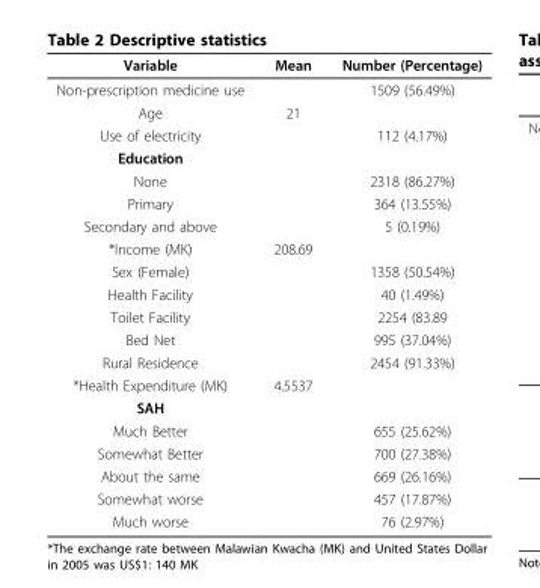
<table><thead><tr><td>Variable</td><td>Mean</td><td>Number (Percentage)</td></tr></thead><tbody><tr><td>Non-prescription medicine use</td><td></td><td>1509 (56.49%)</td></tr><tr><td>Age</td><td>21</td><td></td></tr><tr><td>Use of electricity</td><td></td><td>112 (4.17%)</td></tr><tr><td colspan="3">Education</td></tr><tr><td>None</td><td></td><td>2318 (86.27%)</td></tr><tr><td>Primary</td><td></td><td>364 (13.55%)</td></tr><tr><td>Secondary and above</td><td></td><td>5 (0.19%)</td></tr><tr><td>*Income (MK)</td><td>208.69</td><td></td></tr><tr><td>Sex (Female)</td><td></td><td>1358 (50.54%)</td></tr><tr><td>Health Facility</td><td></td><td>40 (1.49%)</td></tr><tr><td>Toilet Facility</td><td></td><td>2254 (83.89</td></tr><tr><td>Bed Net</td><td></td><td>995 (37.04%)</td></tr><tr><td>Rural Residence</td><td></td><td>2454 (91.33%)</td></tr><tr><td>*Health Expenditure (MK)</td><td>4.5537</td><td></td></tr><tr><td colspan="3">SAH</td></tr><tr><td>Much Better</td><td></td><td>655 (25.62%)</td></tr><tr><td>Somewhat Better</td><td></td><td>700 (27.38%)</td></tr><tr><td>About the same</td><td></td><td>669 (26.16%)</td></tr><tr><td>Somewhat worse</td><td></td><td>457 (17.87%)</td></tr><tr><td>Much worse</td><td></td><td>76 (2.97%)</td></tr></tbody></table>